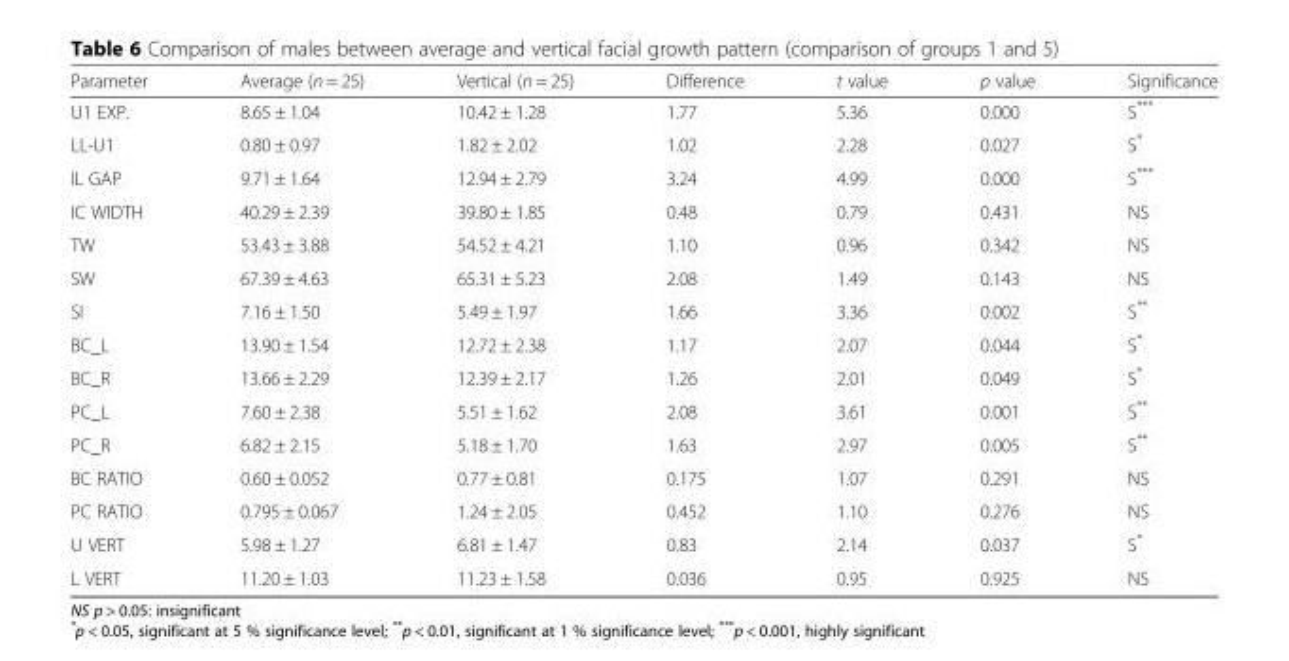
<table><thead><tr><td>Parameter</td><td>Average (n = 25)</td><td>Vertical (n = 25)</td><td>Difference</td><td>t value</td><td>p value</td><td>Significance</td></tr></thead><tbody><tr><td>U1 EXP.</td><td>8.65 ± 1.04</td><td>10.42 ± 1.28</td><td>1.77</td><td>5.36</td><td>0.000</td><td>S***</td></tr><tr><td>LL-U1</td><td>0.80 ± 0.97</td><td>1.82 ± 2.02</td><td>1.02</td><td>2.28</td><td>0.027</td><td>S*</td></tr><tr><td>IL GAP</td><td>9.71 ± 1.64</td><td>12.94 ± 2.79</td><td>3.24</td><td>4.99</td><td>0.000</td><td>S***</td></tr><tr><td>IC WIDTH</td><td>40.29 ± 2.39</td><td>39.80 ± 1.85</td><td>0.48</td><td>0.79</td><td>0.431</td><td>NS</td></tr><tr><td>TW</td><td>53.43 ± 3.88</td><td>54.52 ± 4.21</td><td>1.10</td><td>0.96</td><td>0.342</td><td>NS</td></tr><tr><td>SW</td><td>67.39 ± 4.63</td><td>65.31 ± 5.23</td><td>2.08</td><td>1.49</td><td>0.143</td><td>NS</td></tr><tr><td>SI</td><td>7.16 ± 1.50</td><td>5.49 ± 1.97</td><td>1.66</td><td>3.36</td><td>0.002</td><td>S**</td></tr><tr><td>BC_L</td><td>13.90 ± 1.54</td><td>12.72 ± 2.38</td><td>1.17</td><td>2.07</td><td>0.044</td><td>S*</td></tr><tr><td>BC_R</td><td>13.66 ± 2.29</td><td>12.39 ± 2.17</td><td>1.26</td><td>2.01</td><td>0.049</td><td>S*</td></tr><tr><td>PC_L</td><td>7.60 ± 2.38</td><td>5.51 ± 1.62</td><td>2.08</td><td>3.61</td><td>0.001</td><td>S**</td></tr><tr><td>PC_R</td><td>6.82 ± 2.15</td><td>5.18 ± 1.70</td><td>1.63</td><td>2.97</td><td>0.005</td><td>S**</td></tr><tr><td>BC RATIO</td><td>0.60 ± 0.052</td><td>0.77 ± 0.81</td><td>0.175</td><td>1.07</td><td>0.291</td><td>NS</td></tr><tr><td>PC RATIO</td><td>0.795 ± 0.067</td><td>1.24 ± 2.05</td><td>0.452</td><td>1.10</td><td>0.276</td><td>NS</td></tr><tr><td>U VERT</td><td>5.98 ± 1.27</td><td>6.81 ± 1.47</td><td>0.83</td><td>2.14</td><td>0.037</td><td>S*</td></tr><tr><td>L VERT</td><td>11.20 ± 1.03</td><td>11.23 ± 1.58</td><td>0.036</td><td>0.95</td><td>0.925</td><td>NS</td></tr></tbody></table>